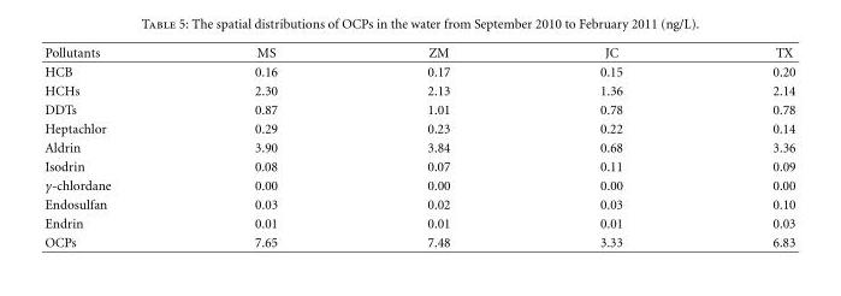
<table><thead><tr><td>Pollutants</td><td>MS</td><td>ZM</td><td>JC</td><td>TX</td></tr></thead><tbody><tr><td>HCB</td><td>0.16</td><td>0.17</td><td>0.15</td><td>0.20</td></tr><tr><td>HCHs</td><td>2.30</td><td>2.13</td><td>1.36</td><td>2.14</td></tr><tr><td>DDTs</td><td>0.87</td><td>1.01</td><td>0.78</td><td>0.78</td></tr><tr><td>Heptachlor</td><td>0.29</td><td>0.23</td><td>0.22</td><td>0.14</td></tr><tr><td>Aldrin</td><td>3.90</td><td>3.84</td><td>0.68</td><td>3.36</td></tr><tr><td>Isodrin</td><td>0.08</td><td>0.07</td><td>0.11</td><td>0.09</td></tr><tr><td>γ-chlordane</td><td>0.00</td><td>0.00</td><td>0.00</td><td>0.00</td></tr><tr><td>Endosulfan</td><td>0.03</td><td>0.02</td><td>0.03</td><td>0.10</td></tr><tr><td>Endrin</td><td>0.01</td><td>0.01</td><td>0.01</td><td>0.03</td></tr><tr><td>OCPs</td><td>7.65</td><td>7.48</td><td>3.33</td><td>6.83</td></tr></tbody></table>